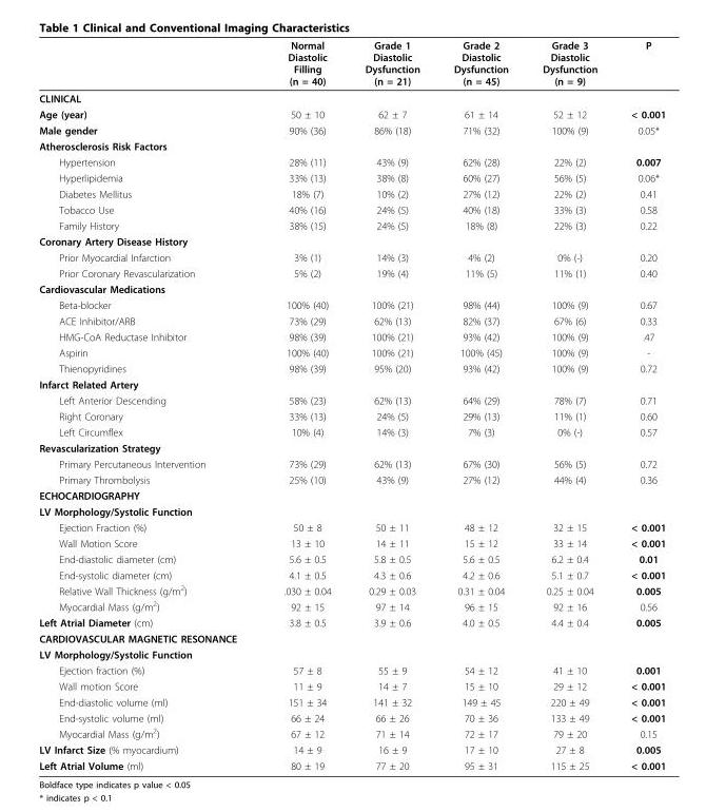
<table><thead><tr><td></td><td>Normal Diastolic Filling (n = 40)</td><td>Grade 1 Diastolic Dysfunction (n = 21)</td><td>Grade 2 Diastolic Dysfunction (n = 45)</td><td>Grade 3 Diastolic Dysfunction (n = 9)</td><td>P</td></tr></thead><tbody><tr><td colspan="6">CLINICAL</td></tr><tr><td>Age (year)</td><td>50 ± 10</td><td>62 ± 7</td><td>61 ± 14</td><td>52 ± 12</td><td>&lt; 0.001</td></tr><tr><td>Male gender</td><td>90% (36)</td><td>86% (18)</td><td>71% (32)</td><td>100% (9)</td><td>0.05*</td></tr><tr><td colspan="6">Atherosclerosis Risk Factors</td></tr><tr><td>Hypertension</td><td>28% (11)</td><td>43% (9)</td><td>62% (28)</td><td>22% (2)</td><td>0.007</td></tr><tr><td>Hyperlipidemia</td><td>33% (13)</td><td>38% (8)</td><td>60% (27)</td><td>56% (5)</td><td>0.06*</td></tr><tr><td>Diabetes Mellitus</td><td>18% (7)</td><td>10% (2)</td><td>27% (12)</td><td>22% (2)</td><td>0.41</td></tr><tr><td>Tobacco Use</td><td>40% (16)</td><td>24% (5)</td><td>40% (18)</td><td>33% (3)</td><td>0.58</td></tr><tr><td>Family History</td><td>38% (15)</td><td>24% (5)</td><td>18% (8)</td><td>22% (3)</td><td>0.22</td></tr><tr><td colspan="6">Coronary Artery Disease History</td></tr><tr><td>Prior Myocardial Infarction</td><td>3% (1)</td><td>14% (3)</td><td>4% (2)</td><td>0% (-)</td><td>0.20</td></tr><tr><td>Prior Coronary Revascularization</td><td>5% (2)</td><td>19% (4)</td><td>11% (5)</td><td>11% (1)</td><td>0.40</td></tr><tr><td colspan="6">Cardiovascular Medications</td></tr><tr><td>Beta-blocker</td><td>100% (40)</td><td>100% (21)</td><td>98% (44)</td><td>100% (9)</td><td>0.67</td></tr><tr><td>ACE Inhibitor/ARB</td><td>73% (29)</td><td>62% (13)</td><td>82% (37)</td><td>67% (6)</td><td>0.33</td></tr><tr><td>HMG-CoA Reductase Inhibitor</td><td>98% (39)</td><td>100% (21)</td><td>93% (42)</td><td>100% (9)</td><td>.47</td></tr><tr><td>Aspirin</td><td>100% (40)</td><td>100% (21)</td><td>100% (45)</td><td>100% (9)</td><td>-</td></tr><tr><td>Thienopyridines</td><td>98% (39)</td><td>95% (20)</td><td>93% (42)</td><td>100% (9)</td><td>0.72</td></tr><tr><td colspan="6">Infarct Related Artery</td></tr><tr><td>Left Anterior Descending</td><td>58% (23)</td><td>62% (13)</td><td>64% (29)</td><td>78% (7)</td><td>0.71</td></tr><tr><td>Right Coronary</td><td>33% (13)</td><td>24% (5)</td><td>29% (13)</td><td>11% (1)</td><td>0.60</td></tr><tr><td>Left Circumflex</td><td>10% (4)</td><td>14% (3)</td><td>7% (3)</td><td>0% (-)</td><td>0.57</td></tr><tr><td colspan="6">Revascularization Strategy</td></tr><tr><td>Primary Percutaneous Intervention</td><td>73% (29)</td><td>62% (13)</td><td>67% (30)</td><td>56% (5)</td><td>0.72</td></tr><tr><td>Primary Thrombolysis</td><td>25% (10)</td><td>43% (9)</td><td>27% (12)</td><td>44% (4)</td><td>0.36</td></tr><tr><td colspan="6">ECHOCARDIOGRAPHY</td></tr><tr><td colspan="6">LV Morphology/Systolic Function</td></tr><tr><td>Ejection Fraction (%)</td><td>50 ± 8</td><td>50 ± 11</td><td>48 ± 12</td><td>32 ± 15</td><td>&lt; 0.001</td></tr><tr><td>Wall Motion Score</td><td>13 ± 10</td><td>14 ± 11</td><td>15 ± 12</td><td>33 ± 14</td><td>&lt; 0.001</td></tr><tr><td>End-diastolic diameter (cm)</td><td>5.6 ± 0.5</td><td>5.8 ± 0.5</td><td>5.6 ± 0.5</td><td>6.2 ± 0.4</td><td>0.01</td></tr><tr><td>End-systolic diameter (cm)</td><td>4.1 ± 0.5</td><td>4.3 ± 0.6</td><td>4.2 ± 0.6</td><td>5.1 ± 0.7</td><td>&lt; 0.001</td></tr><tr><td>Relative Wall Thickness (g/m<sup>2</sup>)</td><td>.030 ± 0.04</td><td>0.29 ± 0.03</td><td>0.31 ± 0.04</td><td>0.25 ± 0.04</td><td>0.005</td></tr><tr><td>Myocardial Mass (g/m<sup>2</sup>)</td><td>92 ± 15</td><td>97 ± 14</td><td>96 ± 15</td><td>92 ± 16</td><td>0.56</td></tr><tr><td>Left Atrial Diameter (cm)</td><td>3.8 ± 0.5</td><td>3.9 ± 0.6</td><td>4.0 ± 0.5</td><td>4.4 ± 0.4</td><td>0.005</td></tr><tr><td colspan="6">CARDIOVASCULAR MAGNETIC RESONANCE</td></tr><tr><td colspan="6">LV Morphology/Systolic Function</td></tr><tr><td>Ejection fraction (%)</td><td>57 ± 8</td><td>55 ± 9</td><td>54 ± 12</td><td>41 ± 10</td><td>0.001</td></tr><tr><td>Wall motion Score</td><td>11 ± 9</td><td>14 ± 7</td><td>15 ± 10</td><td>29 ± 12</td><td>&lt; 0.001</td></tr><tr><td>End-diastolic volume (ml)</td><td>151 ± 34</td><td>141 ± 32</td><td>149 ± 45</td><td>220 ± 49</td><td>&lt; 0.001</td></tr><tr><td>End-systolic volume (ml)</td><td>66 ± 24</td><td>66 ± 26</td><td>70 ± 36</td><td>133 ± 49</td><td>&lt; 0.001</td></tr><tr><td>Myocardial Mass (g/m<sup>2</sup>)</td><td>67 ± 12</td><td>71 ± 14</td><td>72 ± 17</td><td>79 ± 20</td><td>0.15</td></tr><tr><td>LV Infarct Size (% myocardium)</td><td>14 ± 9</td><td>16 ± 9</td><td>17 ± 10</td><td>27 ± 8</td><td>0.005</td></tr><tr><td>Left Atrial Volume (ml)</td><td>80 ± 19</td><td>77 ± 20</td><td>95 ± 31</td><td>115 ± 25</td><td>&lt; 0.001</td></tr></tbody></table>